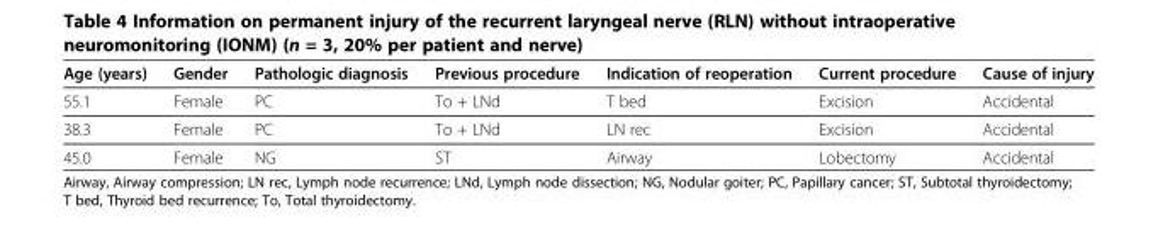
<table><thead><tr><td>Age (years)</td><td>Gender</td><td>Pathologic diagnosis</td><td>Previous procedure</td><td>Indication of reoperation</td><td>Current procedure</td><td>Cause of injury</td></tr></thead><tbody><tr><td>55.1</td><td>Female</td><td>PC</td><td>To + LNd</td><td>T bed</td><td>Excision</td><td>Accidental</td></tr><tr><td>38.3</td><td>Female</td><td>PC</td><td>To + LNd</td><td>LN rec</td><td>Excision</td><td>Accidental</td></tr><tr><td>45.0</td><td>Female</td><td>NG</td><td>ST</td><td>Airway</td><td>Lobectomy</td><td>Accidental</td></tr></tbody></table>